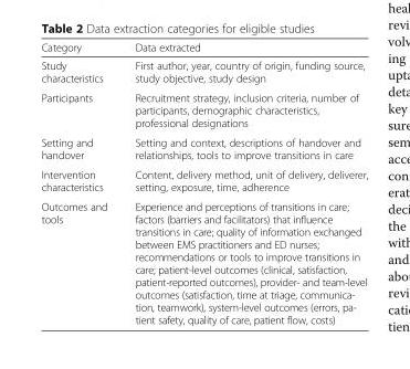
<table><thead><tr><td>Category</td><td>Data extracted</td></tr></thead><tbody><tr><td>Study characteristics</td><td>First author, year, country of origin, funding source, study objective, study design</td></tr><tr><td>Participants</td><td>Recruitment strategy, inclusion criteria, number of participants, demographic characteristics, professional designations</td></tr><tr><td>Setting and handover</td><td>Setting and context, descriptions of handover and relationships, tools to improve transitions in care</td></tr><tr><td>Intervention characteristics</td><td>Content, delivery method, unit of delivery, deliverer, setting, exposure, time, adherence</td></tr><tr><td>Outcomes and tools</td><td>Experience and perceptions of transitions in care; factors (barriers and facilitators) that influence transitions in care; quality of information exchanged between EMS practitioners and ED nurses; recommendations or tools to improve transitions in care; patient-level outcomes (clinical, satisfaction, patient-reported outcomes), provider- and team-level outcomes (satisfaction, time at triage, communica- tion, teamwork), system-level outcomes (errors, pa- tient safety, quality of care, patient flow, costs)</td></tr></tbody></table>